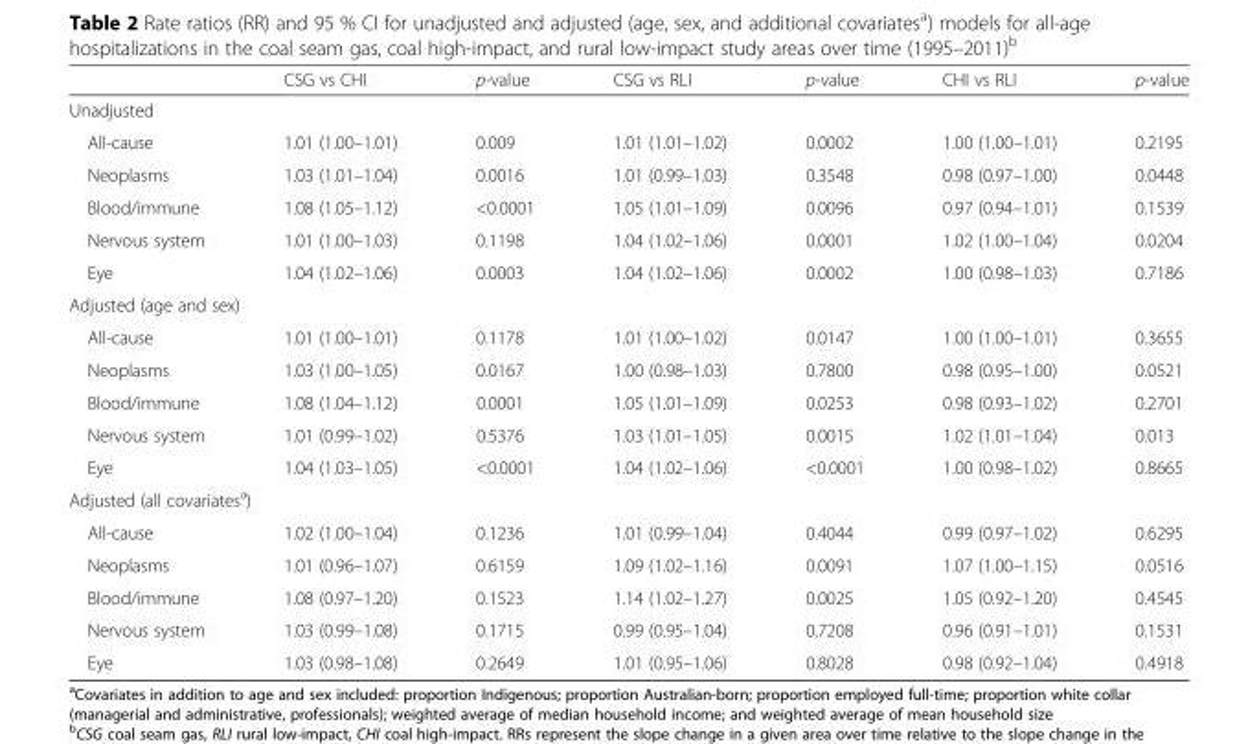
<table><thead><tr><td></td><td>CSG vs CHI</td><td>p-value</td><td>CSG vs RLI</td><td>p-value</td><td>CHI vs RLI</td><td>p-value</td></tr></thead><tbody><tr><td colspan="7">Unadjusted</td></tr><tr><td>All-cause</td><td>1.01 (1.00–1.01)</td><td>0.009</td><td>1.01 (1.01–1.02)</td><td>0.0002</td><td>1.00 (1.00–1.01)</td><td>0.2195</td></tr><tr><td>Neoplasms</td><td>1.03 (1.01–1.04)</td><td>0.0016</td><td>1.01 (0.99–1.03)</td><td>0.3548</td><td>0.98 (0.97–1.00)</td><td>0.0448</td></tr><tr><td>Blood/immune</td><td>1.08 (1.05–1.12)</td><td>&lt;0.0001</td><td>1.05 (1.01–1.09)</td><td>0.0096</td><td>0.97 (0.94–1.01)</td><td>0.1539</td></tr><tr><td>Nervous system</td><td>1.01 (1.00–1.03)</td><td>0.1198</td><td>1.04 (1.02–1.06)</td><td>0.0001</td><td>1.02 (1.00–1.04)</td><td>0.0204</td></tr><tr><td>Eye</td><td>1.04 (1.02–1.06)</td><td>0.0003</td><td>1.04 (1.02–1.06)</td><td>0.0002</td><td>1.00 (0.98–1.03)</td><td>0.7186</td></tr><tr><td colspan="7">Adjusted (age and sex)</td></tr><tr><td>All-cause</td><td>1.01 (1.00–1.01)</td><td>0.1178</td><td>1.01 (1.00–1.02)</td><td>0.0147</td><td>1.00 (1.00–1.01)</td><td>0.3655</td></tr><tr><td>Neoplasms</td><td>1.03 (1.00–1.05)</td><td>0.0167</td><td>1.00 (0.98–1.03)</td><td>0.7800</td><td>0.98 (0.95–1.00)</td><td>0.0521</td></tr><tr><td>Blood/immune</td><td>1.08 (1.04–1.12)</td><td>0.0001</td><td>1.05 (1.01–1.09)</td><td>0.0253</td><td>0.98 (0.93–1.02)</td><td>0.2701</td></tr><tr><td>Nervous system</td><td>1.01 (0.99–1.02)</td><td>0.5376</td><td>1.03 (1.01–1.05)</td><td>0.0015</td><td>1.02 (1.01–1.04)</td><td>0.013</td></tr><tr><td>Eye</td><td>1.04 (1.03–1.05)</td><td>&lt;0.0001</td><td>1.04 (1.02–1.06)</td><td>&lt;0.0001</td><td>1.00 (0.98–1.02)</td><td>0.8665</td></tr><tr><td colspan="7">Adjusted (all covariates<sup>a</sup>)</td></tr><tr><td>All-cause</td><td>1.02 (1.00–1.04)</td><td>0.1236</td><td>1.01 (0.99–1.04)</td><td>0.4044</td><td>0.99 (0.97–1.02)</td><td>0.6295</td></tr><tr><td>Neoplasms</td><td>1.01 (0.96–1.07)</td><td>0.6159</td><td>1.09 (1.02–1.16)</td><td>0.0091</td><td>1.07 (1.00–1.15)</td><td>0.0516</td></tr><tr><td>Blood/immune</td><td>1.08 (0.97–1.20)</td><td>0.1523</td><td>1.14 (1.02–1.27)</td><td>0.0025</td><td>1.05 (0.92–1.20)</td><td>0.4545</td></tr><tr><td>Nervous system</td><td>1.03 (0.99–1.08)</td><td>0.1715</td><td>0.99 (0.95–1.04)</td><td>0.7208</td><td>0.96 (0.91–1.01)</td><td>0.1531</td></tr><tr><td>Eye</td><td>1.03 (0.98–1.08)</td><td>0.2649</td><td>1.01 (0.95–1.06)</td><td>0.8028</td><td>0.98 (0.92–1.04)</td><td>0.4918</td></tr></tbody></table>